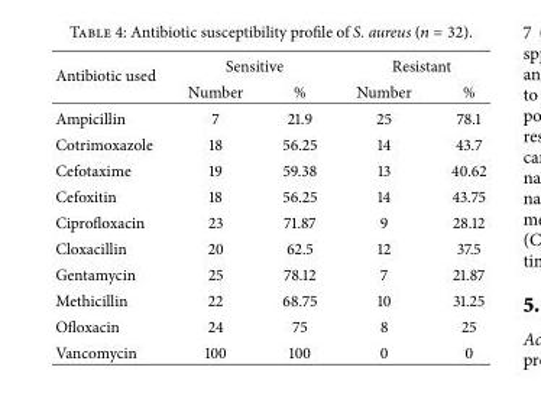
<table><thead><tr><td rowspan="2">Antibiotic used</td><td colspan="2">Sensitive</td><td colspan="2">Resistant</td></tr><tr><td>Number</td><td>%</td><td>Number</td><td>%</td></tr></thead><tbody><tr><td>Ampicillin</td><td>7</td><td>21.9</td><td>25</td><td>78.1</td></tr><tr><td>Cotrimoxazole</td><td>18</td><td>56.25</td><td>14</td><td>43.7</td></tr><tr><td>Cefotaxime</td><td>19</td><td>59.38</td><td>13</td><td>40.62</td></tr><tr><td>Cefoxitin</td><td>18</td><td>56.25</td><td>14</td><td>43.75</td></tr><tr><td>Ciprofloxacin</td><td>23</td><td>71.87</td><td>9</td><td>28.12</td></tr><tr><td>Cloxacillin</td><td>20</td><td>62.5</td><td>12</td><td>37.5</td></tr><tr><td>Gentamycin</td><td>25</td><td>78.12</td><td>7</td><td>21.87</td></tr><tr><td>Methicillin</td><td>22</td><td>68.75</td><td>10</td><td>31.25</td></tr><tr><td>Ofloxacin</td><td>24</td><td>75</td><td>8</td><td>25</td></tr><tr><td>Vancomycin</td><td>100</td><td>100</td><td>0</td><td>0</td></tr></tbody></table>